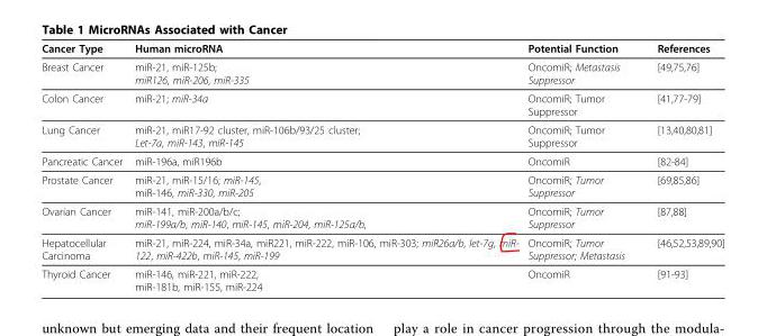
<table><thead><tr><td>Cancer Type</td><td>Human microRNA</td><td>Potential Function</td><td>References</td></tr></thead><tbody><tr><td>Breast Cancer</td><td>miR-21, miR-125b; miR126, miR-206, miR-335</td><td>OncomiR; Metastasis Suppressor</td><td>[49,75,76]</td></tr><tr><td>Colon Cancer</td><td>miR-21; miR-34a</td><td>OncomiR; Tumor Suppressor</td><td>[41,77-79]</td></tr><tr><td>Lung Cancer</td><td>miR-21, miR17-92 cluster, miR-106b/93/25 cluster; Let-7a, miR-143, miR-145</td><td>OncomiR; Tumor Suppressor</td><td>[13,40,80,81]</td></tr><tr><td>Pancreatic Cancer</td><td>miR-196a, miR196b</td><td>OncomiR</td><td>[82-84]</td></tr><tr><td>Prostate Cancer</td><td>miR-21, miR-15/16; miR-145, miR-146, miR-330, miR-205</td><td>OncomiR; Tumor Suppressor</td><td>[69,85,86]</td></tr><tr><td>Ovarian Cancer</td><td>miR-141, miR-200a/b/c; miR-199a/b, miR-140, miR-145, miR-204, miR-125a/b,</td><td>OncomiR; Tumor Suppressor</td><td>[87,88]</td></tr><tr><td>Hepatocellular Carcinoma</td><td>miR-21, miR-224, miR-34a, miR221, miR-222, miR-106, miR-303; miR26a/b, let-7g, miR- 122, miR-422b, miR-145, miR-199</td><td>OncomiR; Tumor Suppressor; Metastasis</td><td>[46,52,53,89,90]</td></tr><tr><td>Thyroid Cancer</td><td>miR-146, miR-221, miR-222, miR-181b, miR-155, miR-224</td><td>OncomiR</td><td>[91-93]</td></tr></tbody></table>